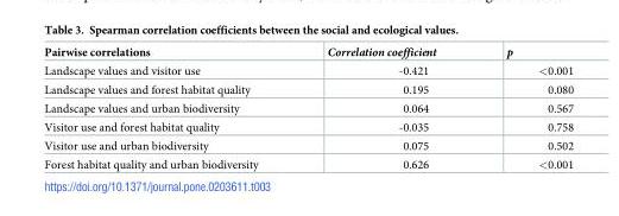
<table><thead><tr><td>Pairwise correlations</td><td>Correlation coefficient</td><td>p</td></tr></thead><tbody><tr><td>Landscape values and visitor use</td><td>-0.421</td><td>&lt;0.001</td></tr><tr><td>Landscape values and forest habitat quality</td><td>0.195</td><td>0.080</td></tr><tr><td>Landscape values and urban biodiversity</td><td>0.064</td><td>0.567</td></tr><tr><td>Visitor use and forest habitat quality</td><td>-0.035</td><td>0.758</td></tr><tr><td>Visitor use and urban biodiversity</td><td>0.075</td><td>0.502</td></tr><tr><td>Forest habitat quality and urban biodiversity</td><td>0.626</td><td>&lt;0.001</td></tr></tbody></table>